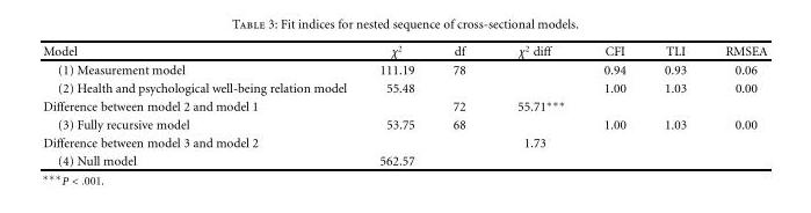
<table><thead><tr><td>Model</td><td>χ<sup>2</sup></td><td>df</td><td>χ<sup>2</sup> diff</td><td>CFI</td><td>TLI</td><td>RMSEA</td></tr></thead><tbody><tr><td>(1) Measurement model</td><td>111.19</td><td>78</td><td></td><td>0.94</td><td>0.93</td><td>0.06</td></tr><tr><td>(2) Health and psychological well-being relation model</td><td>55.48</td><td></td><td></td><td>1.00</td><td>1.03</td><td>0.00</td></tr><tr><td>Difference between model 2 and model 1</td><td></td><td>72</td><td>55.71∗∗∗</td><td></td><td></td><td></td></tr><tr><td>(3) Fully recursive model</td><td>53.75</td><td>68</td><td></td><td>1.00</td><td>1.03</td><td>0.00</td></tr><tr><td>Difference between model 3 and model 2</td><td></td><td></td><td>1.73</td><td></td><td></td><td></td></tr><tr><td>(4) Null model</td><td>562.57</td><td></td><td></td><td></td><td></td><td></td></tr></tbody></table>